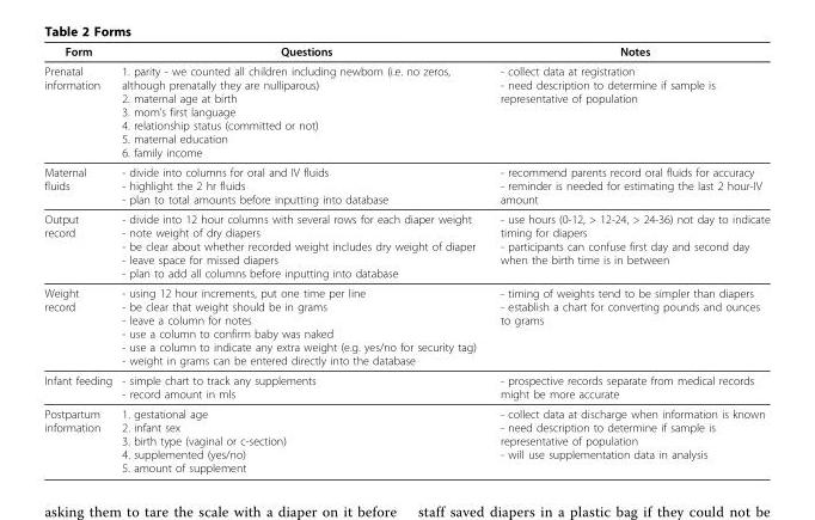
<table><thead><tr><td>Form</td><td>Questions</td><td>Notes</td></tr></thead><tbody><tr><td>Prenatal information</td><td>1. parity - we counted all children including newborn (i.e. no zeros, although prenatally they are nulliparous) 2. maternal age at birth 3. mom’s first language 4. relationship status (committed or not) 5. maternal education 6. family income</td><td>- collect data at registration - need description to determine if sample is representative of population</td></tr><tr><td>Maternal fluids</td><td>- divide into columns for oral and IV fluids - highlight the 2 hr fluids - plan to total amounts before inputting into database</td><td>- recommend parents record oral fluids for accuracy - reminder is needed for estimating the last 2 hour-IV amount</td></tr><tr><td>Output record</td><td>- divide into 12 hour columns with several rows for each diaper weight - note weight of dry diapers - be clear about whether recorded weight includes dry weight of diaper - leave space for missed diapers - plan to add all columns before inputting into database</td><td>- use hours (0-12, &gt; 12-24, &gt; 24-36) not day to indicate timing for diapers - participants can confuse first day and second day when the birth time is in between</td></tr><tr><td>Weight record</td><td>- using 12 hour increments, put one time per line - be clear that weight should be in grams - leave a column for notes - use a column to confirm baby was naked - use a column to indicate any extra weight (e.g. yes/no for security tag) - weight in grams can be entered directly into the database</td><td>- timing of weights tend to be simpler than diapers - establish a chart for converting pounds and ounces to grams</td></tr><tr><td>Infant feeding</td><td>- simple chart to track any supplements - record amount in mls</td><td>- prospective records separate from medical records might be more accurate</td></tr><tr><td>Postpartum information</td><td>1. gestational age 2. infant sex 3. birth type (vaginal or c-section) 4. supplemented (yes/no) 5. amount of supplement</td><td>- collect data at discharge when information is known - need description to determine if sample is representative of population - will use supplementation data in analysis</td></tr></tbody></table>